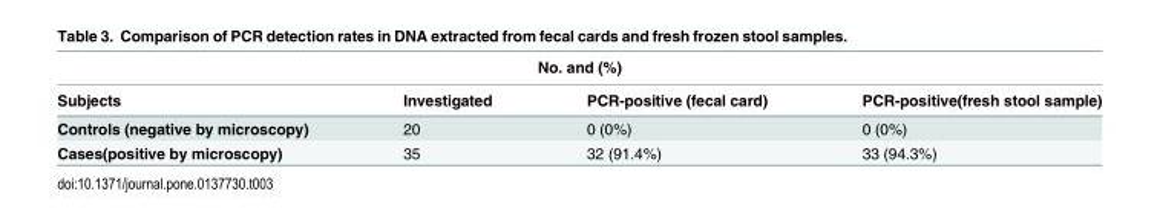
<table><thead><tr><td colspan="4">No. and (%)</td></tr><tr><td>Subjects</td><td>Investigated</td><td>PCR-positive (fecal card)</td><td>PCR-positive(fresh stool sample)</td></tr></thead><tbody><tr><td>Controls (negative by microscopy)</td><td>20</td><td>0 (0%)</td><td>0 (0%)</td></tr><tr><td>Cases(positive by microscopy)</td><td>35</td><td>32 (91.4%)</td><td>33 (94.3%)</td></tr></tbody></table>